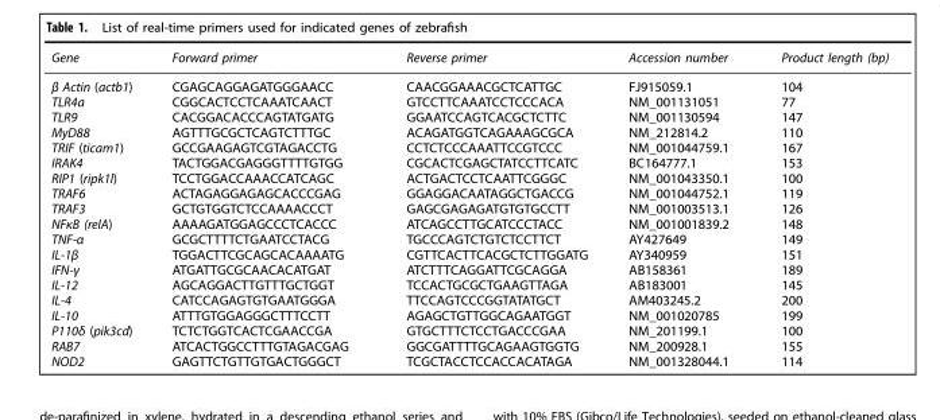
<table><thead><tr><td>Gene</td><td>Forward primer</td><td>Reverse primer</td><td>Accession number</td><td>Product length (bp)</td></tr></thead><tbody><tr><td>β Actin (actb1)</td><td>CGAGCAGGAGATGGGAACC</td><td>CAACGGAAACGCTCATTGC</td><td>FJ915059.1</td><td>104</td></tr><tr><td>TLR4a</td><td>CGGCACTCCTCAAATCAACT</td><td>GTCCTTCAAATCCTCCCACA</td><td>NM_001131051</td><td>77</td></tr><tr><td>TLR9</td><td>CACGGACACCCAGTATGATG</td><td>GGAATCCAGTCACGCTCTTC</td><td>NM_001130594</td><td>147</td></tr><tr><td>MyD88</td><td>AGTTTGCGCTCAGTCTTTGC</td><td>ACAGATGGTCAGAAAGCGCA</td><td>NM_212814.2</td><td>110</td></tr><tr><td>TRIF (ticam1)</td><td>GCCGAAGAGTCGTAGACCTG</td><td>CCTCTCCCAAATTCCGTCCC</td><td>NM_001044759.1</td><td>167</td></tr><tr><td>IRAK4</td><td>TACTGGACGAGGGTTTTGTGG</td><td>CGCACTCGAGCTATCCTTCATC</td><td>BC164777.1</td><td>153</td></tr><tr><td>RIP1 (ripk1l)</td><td>TCCTGGACCAAACCATCAGC</td><td>ACTGACTCCTCAATTCGGGC</td><td>NM_001043350.1</td><td>100</td></tr><tr><td>TRAF6</td><td>ACTAGAGGAGAGCACCCGAG</td><td>GGAGGACAATAGGCTGACCG</td><td>NM_001044752.1</td><td>119</td></tr><tr><td>TRAF3</td><td>GCTGTGGTCTCCAAAACCCT</td><td>GAGCGAGAGATGTGTGCCTT</td><td>NM_001003513.1</td><td>126</td></tr><tr><td>NFκB (relA)</td><td>AAAAGATGGAGCCCTCACCC</td><td>ATCAGCCTTGCATCCCTACC</td><td>NM_001001839.2</td><td>148</td></tr><tr><td>TNF-α</td><td>GCGCTTTTCTGAATCCTACG</td><td>TGCCCAGTCTGTCTCCTTCT</td><td>AY427649</td><td>149</td></tr><tr><td>IL-1β</td><td>TGGACTTCGCAGCACAAAATG</td><td>CGTTCACTTCACGCTCTTGGATG</td><td>AY340959</td><td>151</td></tr><tr><td>IFN-γ</td><td>ATGATTGCGCAACACATGAT</td><td>ATCTTTCAGGATTCGCAGGA</td><td>AB158361</td><td>189</td></tr><tr><td>IL-12</td><td>AGCAGGACTTGTTTGCTGGT</td><td>TCCACTGCGCTGAAGTTAGA</td><td>AB183001</td><td>145</td></tr><tr><td>IL-4</td><td>CATCCAGAGTGTGAATGGGA</td><td>TTCCAGTCCCGGTATATGCT</td><td>AM403245.2</td><td>200</td></tr><tr><td>IL-10</td><td>ATTTGTGGAGGGCTTTCCTT</td><td>AGAGCTGTTGGCAGAATGGT</td><td>NM_001020785</td><td>199</td></tr><tr><td>P110δ (pik3cd)</td><td>TCTCTGGTCACTCGAACCGA</td><td>GTGCTTTCTCCTGACCCGAA</td><td>NM_201199.1</td><td>100</td></tr><tr><td>RAB7</td><td>ATCACTGGCCTTTGTAGACGAG</td><td>GGCGATTTTGCAGAAGTGGTG</td><td>NM_200928.1</td><td>155</td></tr><tr><td>NOD2</td><td>GAGTTCTGTTGTGACTGGGCT</td><td>TCGCTACCTCCACCACATAGA</td><td>NM_001328044.1</td><td>114</td></tr></tbody></table>